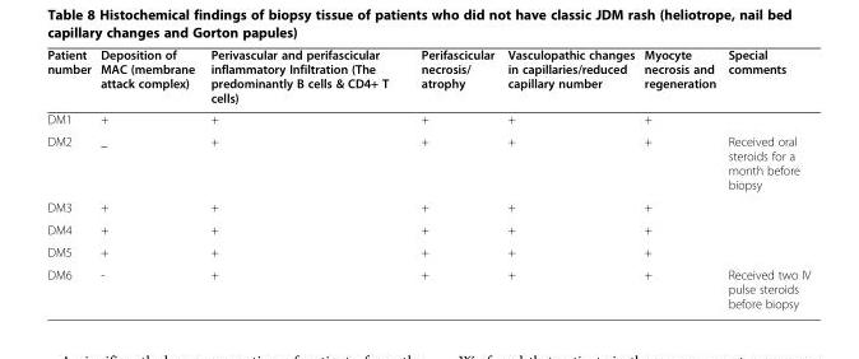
<table><thead><tr><td>Patient number</td><td>Deposition of MAC (membrane attack complex)</td><td>Perivascular and perifascicular inflammatory Infiltration (The predominantly B cells &amp; CD4+ T cells)</td><td>Perifascicular necrosis/ atrophy</td><td>Vasculopathic changes in capillaries/reduced capillary number</td><td>Myocyte necrosis and regeneration</td><td>Special comments</td></tr></thead><tbody><tr><td>DM1</td><td>+</td><td>+</td><td>+</td><td>+</td><td>+</td><td></td></tr><tr><td>DM2</td><td>_</td><td>+</td><td>+</td><td>+</td><td>+</td><td>Received oral steroids for a month before biopsy</td></tr><tr><td>DM3</td><td>+</td><td>+</td><td>+</td><td>+</td><td>+</td><td></td></tr><tr><td>DM4</td><td>+</td><td>+</td><td>+</td><td>+</td><td>+</td><td></td></tr><tr><td>DM5</td><td>+</td><td>+</td><td>+</td><td>+</td><td>+</td><td></td></tr><tr><td>DM6</td><td>-</td><td>+</td><td>+</td><td>+</td><td>+</td><td>Received two IV pulse steroids before biopsy</td></tr></tbody></table>